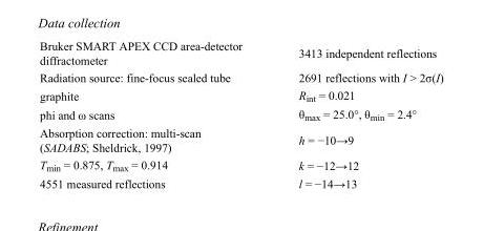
<table><tbody><tr><td>Bruker SMART APEX CCD area-detector diffractometer</td><td>3413 independent reflections</td></tr><tr><td>Radiation source: fine-focus sealed tube</td><td>2691 reflections with I &gt; 2σ(I)</td></tr><tr><td>graphite</td><td>R<sub>int</sub> = 0.021</td></tr><tr><td>phi and ω scans</td><td>θ<sub>max</sub> = 25.0°, θ<sub>min</sub> = 2.4°</td></tr><tr><td>Absorption correction: multi-scan (SADABS; Sheldrick, 1997)</td><td>h = −10→9</td></tr><tr><td>T<sub>min</sub> = 0.875, T<sub>max</sub> = 0.914</td><td>k = −12→12</td></tr><tr><td>4551 measured reflections</td><td>l = −14→13</td></tr></tbody></table>